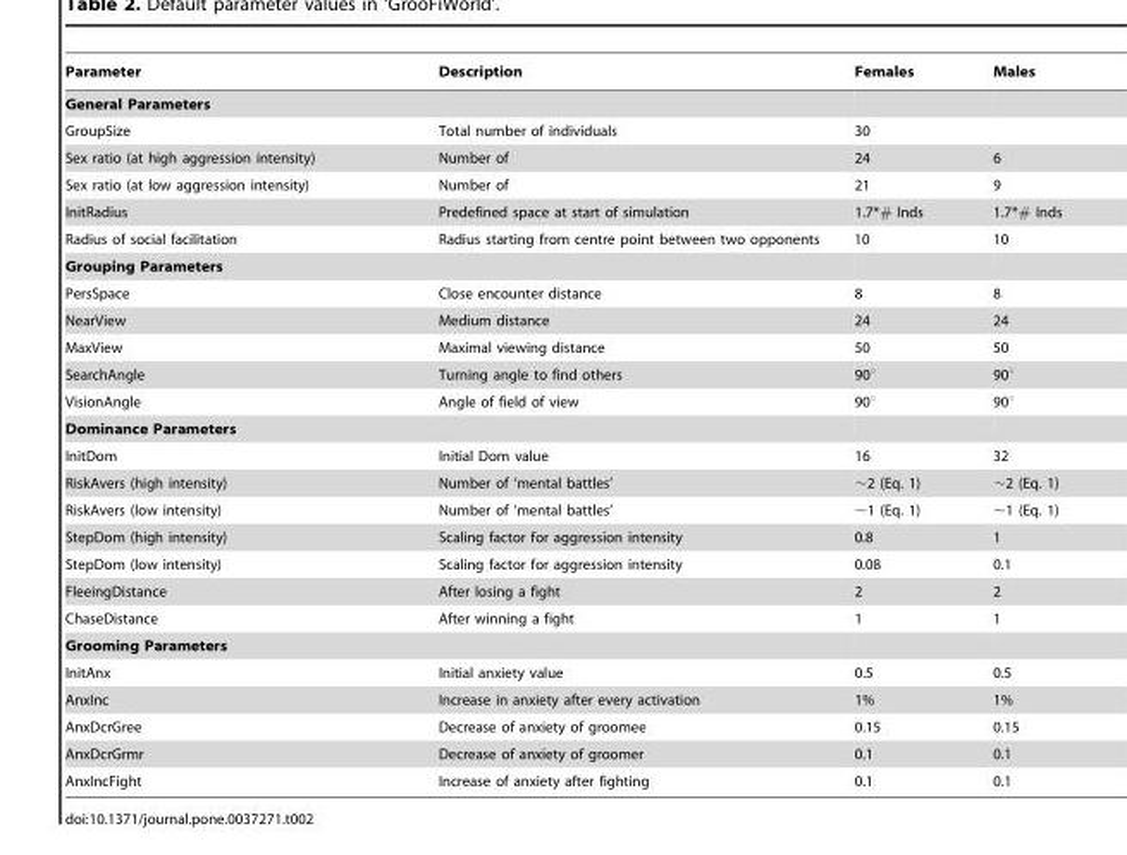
<table><thead><tr><td>Parameter</td><td>Description</td><td>Females</td><td>Males</td></tr></thead><tbody><tr><td colspan="4">General Parameters</td></tr><tr><td>GroupSize</td><td>Total number of individuals</td><td>30</td><td></td></tr><tr><td>Sex ratio (at high aggression intensity)</td><td>Number of</td><td>24</td><td>6</td></tr><tr><td>Sex ratio (at low aggression intensity)</td><td>Number of</td><td>21</td><td>9</td></tr><tr><td>InitRadius</td><td>Predefined space at start of simulation</td><td>1.7*# Inds</td><td>1.7*# Inds</td></tr><tr><td>Radius of social facilitation</td><td>Radius starting from centre point between two opponents</td><td>10</td><td>10</td></tr><tr><td colspan="4">Grouping Parameters</td></tr><tr><td>PersSpace</td><td>Close encounter distance</td><td>8</td><td>8</td></tr><tr><td>NearView</td><td>Medium distance</td><td>24</td><td>24</td></tr><tr><td>MaxView</td><td>Maximal viewing distance</td><td>50</td><td>50</td></tr><tr><td>SearchAngle</td><td>Turning angle to find others</td><td>90°</td><td>90°</td></tr><tr><td>VisionAngle</td><td>Angle of field of view</td><td>90°</td><td>90°</td></tr><tr><td colspan="4">Dominance Parameters</td></tr><tr><td>InitDom</td><td>Initial Dom value</td><td>16</td><td>32</td></tr><tr><td>RiskAvers (high intensity)</td><td>Number of ‘mental battles’</td><td>∼2 (Eq. 1)</td><td>∼2 (Eq. 1)</td></tr><tr><td>RiskAvers (low intensity)</td><td>Number of ‘mental battles’</td><td>∼1 (Eq. 1)</td><td>∼1 (Eq. 1)</td></tr><tr><td>StepDom (high intensity)</td><td>Scaling factor for aggression intensity</td><td>0.8</td><td>1</td></tr><tr><td>StepDom (low intensity)</td><td>Scaling factor for aggression intensity</td><td>0.08</td><td>0.1</td></tr><tr><td>FleeingDistance</td><td>After losing a fight</td><td>2</td><td>2</td></tr><tr><td>ChaseDistance</td><td>After winning a fight</td><td>1</td><td>1</td></tr><tr><td colspan="4">Grooming Parameters</td></tr><tr><td>InitAnx</td><td>Initial anxiety value</td><td>0.5</td><td>0.5</td></tr><tr><td>AnxInc</td><td>Increase in anxiety after every activation</td><td>1%</td><td>1%</td></tr><tr><td>AnxDcrGree</td><td>Decrease of anxiety of groomee</td><td>0.15</td><td>0.15</td></tr><tr><td>AnxDcrGrmr</td><td>Decrease of anxiety of groomer</td><td>0.1</td><td>0.1</td></tr><tr><td>AnxIncFight</td><td>Increase of anxiety after fighting</td><td>0.1</td><td>0.1</td></tr></tbody></table>